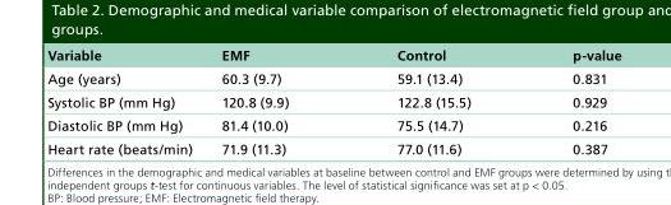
<table><thead><tr><td>Variable</td><td>EMF</td><td>Control</td><td>p-value</td></tr></thead><tbody><tr><td>Age (years)</td><td>60.3 (9.7)</td><td>59.1 (13.4)</td><td>0.831</td></tr><tr><td>Systolic BP (mm Hg)</td><td>120.8 (9.9)</td><td>122.8 (15.5)</td><td>0.929</td></tr><tr><td>Diastolic BP (mm Hg)</td><td>81.4 (10.0)</td><td>75.5 (14.7)</td><td>0.216</td></tr><tr><td>Heart rate (beats/min)</td><td>71.9 (11.3)</td><td>77.0 (11.6)</td><td>0.387</td></tr></tbody></table>